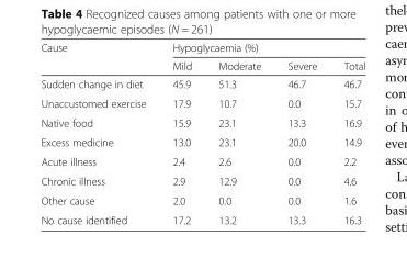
<table><thead><tr><td rowspan="2">Cause</td><td colspan="4">Hypoglycaemia (%)</td></tr><tr><td>Mild</td><td>Moderate</td><td>Severe</td><td>Total</td></tr></thead><tbody><tr><td>Sudden change in diet</td><td>45.9</td><td>51.3</td><td>46.7</td><td>46.7</td></tr><tr><td>Unaccustomed exercise</td><td>17.9</td><td>10.7</td><td>0.0</td><td>15.7</td></tr><tr><td>Native food</td><td>15.9</td><td>23.1</td><td>13.3</td><td>16.9</td></tr><tr><td>Excess medicine</td><td>13.0</td><td>23.1</td><td>20.0</td><td>14.9</td></tr><tr><td>Acute illness</td><td>2.4</td><td>2.6</td><td>0.0</td><td>2.2</td></tr><tr><td>Chronic illness</td><td>2.9</td><td>12.9</td><td>0.0</td><td>4.6</td></tr><tr><td>Other cause</td><td>2.0</td><td>0.0</td><td>0.0</td><td>1.6</td></tr><tr><td>No cause identified</td><td>17.2</td><td>13.2</td><td>13.3</td><td>16.3</td></tr></tbody></table>